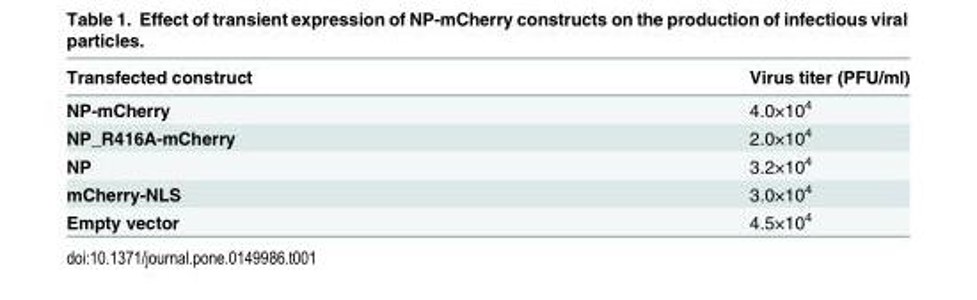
<table><thead><tr><td>Transfected construct</td><td>Virus titer (PFU/ml)</td></tr></thead><tbody><tr><td>NP-mCherry</td><td>4.0×10<sup>4</sup></td></tr><tr><td>NP_R416A-mCherry</td><td>2.0×10<sup>4</sup></td></tr><tr><td>NP</td><td>3.2×10<sup>4</sup></td></tr><tr><td>mCherry-NLS</td><td>3.0×10<sup>4</sup></td></tr><tr><td>Empty vector</td><td>4.5×10<sup>4</sup></td></tr></tbody></table>